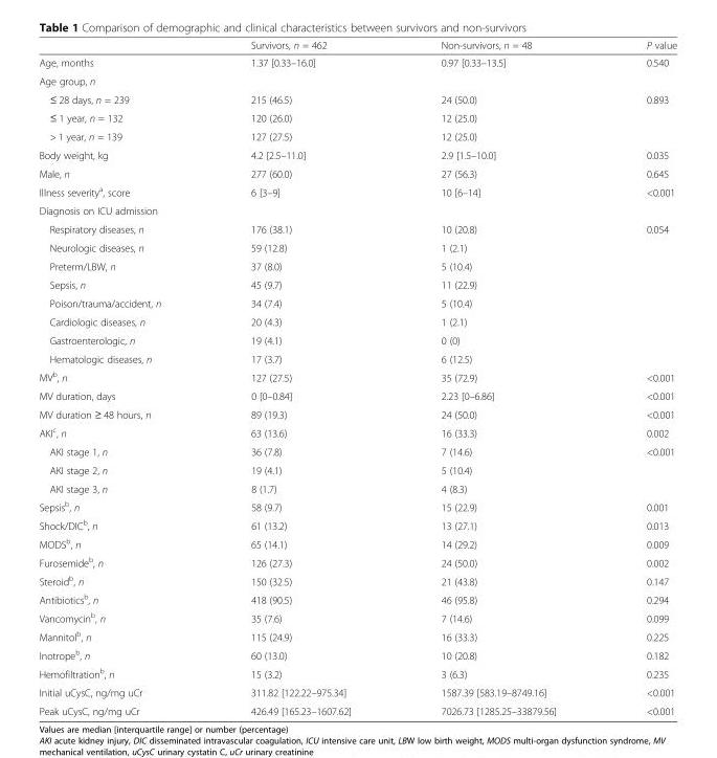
<table><thead><tr><td></td><td>Survivors, n = 462</td><td>Non-survivors, n = 48</td><td>P value</td></tr></thead><tbody><tr><td>Age, months</td><td>1.37 [0.33–16.0]</td><td>0.97 [0.33–13.5]</td><td>0.540</td></tr><tr><td colspan="4">Age group, n</td></tr><tr><td>≤ 28 days, n = 239</td><td>215 (46.5)</td><td>24 (50.0)</td><td rowspan="3">0.893</td></tr><tr><td>≤ 1 year, n = 132</td><td>120 (26.0)</td><td>12 (25.0)</td></tr><tr><td>&gt; 1 year, n = 139</td><td>127 (27.5)</td><td>12 (25.0)</td></tr><tr><td>Body weight, kg</td><td>4.2 [2.5–11.0]</td><td>2.9 [1.5–10.0]</td><td>0.035</td></tr><tr><td>Male, n</td><td>277 (60.0)</td><td>27 (56.3)</td><td>0.645</td></tr><tr><td>Illness severity<sup>a</sup>, score</td><td>6 [3–9]</td><td>10 [6–14]</td><td>&lt;0.001</td></tr><tr><td colspan="4">Diagnosis on ICU admission</td></tr><tr><td>Respiratory diseases, n</td><td>176 (38.1)</td><td>10 (20.8)</td><td rowspan="8">0.054</td></tr><tr><td>Neurologic diseases, n</td><td>59 (12.8)</td><td>1 (2.1)</td></tr><tr><td>Preterm/LBW, n</td><td>37 (8.0)</td><td>5 (10.4)</td></tr><tr><td>Sepsis, n</td><td>45 (9.7)</td><td>11 (22.9)</td></tr><tr><td>Poison/trauma/accident, n</td><td>34 (7.4)</td><td>5 (10.4)</td></tr><tr><td>Cardiologic diseases, n</td><td>20 (4.3)</td><td>1 (2.1)</td></tr><tr><td>Gastroenterologic, n</td><td>19 (4.1)</td><td>0 (0)</td></tr><tr><td>Hematologic diseases, n</td><td>17 (3.7)</td><td>6 (12.5)</td></tr><tr><td>MV<sup>b</sup>, n</td><td>127 (27.5)</td><td>35 (72.9)</td><td>&lt;0.001</td></tr><tr><td>MV duration, days</td><td>0 [0–0.84]</td><td>2.23 [0–6.86]</td><td>&lt;0.001</td></tr><tr><td>MV duration ≥ 48 hours, n</td><td>89 (19.3)</td><td>24 (50.0)</td><td>&lt;0.001</td></tr><tr><td>AKI<sup>c</sup>, n</td><td>63 (13.6)</td><td>16 (33.3)</td><td>0.002</td></tr><tr><td>AKI stage 1, n</td><td>36 (7.8)</td><td>7 (14.6)</td><td rowspan="3">&lt;0.001</td></tr><tr><td>AKI stage 2, n</td><td>19 (4.1)</td><td>5 (10.4)</td></tr><tr><td>AKI stage 3, n</td><td>8 (1.7)</td><td>4 (8.3)</td></tr><tr><td>Sepsis<sup>b</sup>, n</td><td>58 (9.7)</td><td>15 (22.9)</td><td>0.001</td></tr><tr><td>Shock/DIC<sup>b</sup>, n</td><td>61 (13.2)</td><td>13 (27.1)</td><td>0.013</td></tr><tr><td>MODS<sup>b</sup>, n</td><td>65 (14.1)</td><td>14 (29.2)</td><td>0.009</td></tr><tr><td>Furosemide<sup>b</sup>, n</td><td>126 (27.3)</td><td>24 (50.0)</td><td>0.002</td></tr><tr><td>Steroid<sup>b</sup>, n</td><td>150 (32.5)</td><td>21 (43.8)</td><td>0.147</td></tr><tr><td>Antibiotics<sup>b</sup>, n</td><td>418 (90.5)</td><td>46 (95.8)</td><td>0.294</td></tr><tr><td>Vancomycin<sup>b</sup>, n</td><td>35 (7.6)</td><td>7 (14.6)</td><td>0.099</td></tr><tr><td>Mannitol<sup>b</sup>, n</td><td>115 (24.9)</td><td>16 (33.3)</td><td>0.225</td></tr><tr><td>Inotrope<sup>b</sup>, n</td><td>60 (13.0)</td><td>10 (20.8)</td><td>0.182</td></tr><tr><td>Hemofiltration<sup>b</sup>, n</td><td>15 (3.2)</td><td>3 (6.3)</td><td>0.235</td></tr><tr><td>Initial uCysC, ng/mg uCr</td><td>311.82 [122.22–975.34]</td><td>1587.39 [583.19–8749.16]</td><td>&lt;0.001</td></tr><tr><td>Peak uCysC, ng/mg uCr</td><td>426.49 [165.23–1607.62]</td><td>7026.73 [1285.25–33879.56]</td><td>&lt;0.001</td></tr></tbody></table>